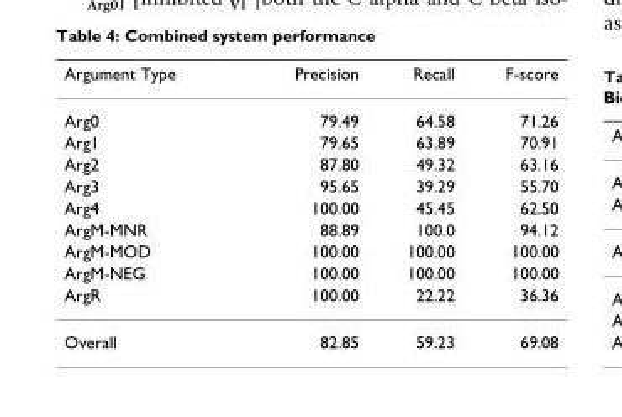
<table><thead><tr><td>Argument Type</td><td>Precision</td><td>Recall</td><td>F-score</td></tr></thead><tbody><tr><td>Arg0</td><td>79.49</td><td>64.58</td><td>71.26</td></tr><tr><td>Arg1</td><td>79.65</td><td>63.89</td><td>70.91</td></tr><tr><td>Arg2</td><td>87.80</td><td>49.32</td><td>63.16</td></tr><tr><td>Arg3</td><td>95.65</td><td>39.29</td><td>55.70</td></tr><tr><td>Arg4</td><td>100.00</td><td>45.45</td><td>62.50</td></tr><tr><td>ArgM-MNR</td><td>88.89</td><td>100.0</td><td>94.12</td></tr><tr><td>ArgM-MOD</td><td>100.00</td><td>100.00</td><td>100.00</td></tr><tr><td>ArgM-NEG</td><td>100.00</td><td>100.00</td><td>100.00</td></tr><tr><td>ArgR</td><td>100.00</td><td>22.22</td><td>36.36</td></tr><tr><td>Overall</td><td>82.85</td><td>59.23</td><td>69.08</td></tr></tbody></table>